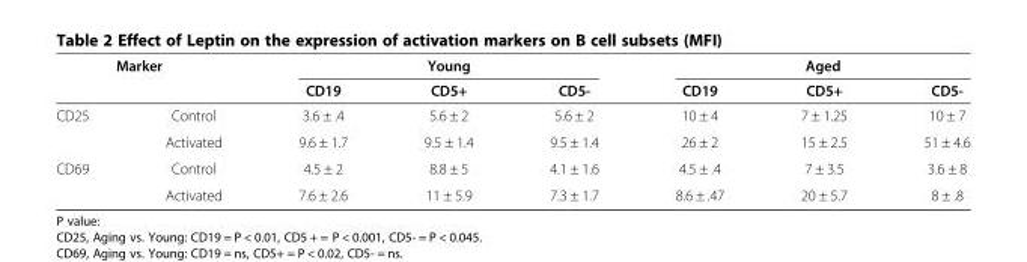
<table><thead><tr><td colspan="2">Marker</td><td colspan="3">Young</td><td colspan="3">Aged</td></tr><tr><td></td><td></td><td>CD19</td><td>CD5+</td><td>CD5-</td><td>CD19</td><td>CD5+</td><td>CD5-</td></tr></thead><tbody><tr><td rowspan="2">CD25</td><td>Control</td><td>3.6 ± .4</td><td>5.6 ± 2</td><td>5.6 ± 2</td><td>10 ± 4</td><td>7 ± 1.25</td><td>10 ± 7</td></tr><tr><td>Activated</td><td>9.6 ± 1.7</td><td>9.5 ± 1.4</td><td>9.5 ± 1.4</td><td>26 ± 2</td><td>15 ± 2.5</td><td>51 ± 4.6</td></tr><tr><td rowspan="2">CD69</td><td>Control</td><td>4.5 ± 2</td><td>8.8 ± 5</td><td>4.1 ± 1.6</td><td>4.5 ± .4</td><td>7 ± 3.5</td><td>3.6 ± 8</td></tr><tr><td>Activated</td><td>7.6 ± 2.6</td><td>11 ± 5.9</td><td>7.3 ± 1.7</td><td>8.6 ± .47</td><td>20 ± 5.7</td><td>8 ± .8</td></tr></tbody></table>